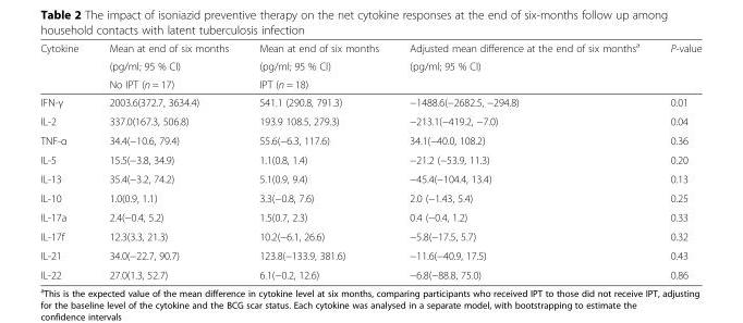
<table><thead><tr><td rowspan="3">Cytokine</td><td rowspan="3">Mean at end of six months (pg/ml; 95 % CI) No IPT (n = 17)</td><td rowspan="3">Mean at end of six months (pg/ml; 95 % CI) IPT (n = 18)</td><td rowspan="3">Adjusted mean difference at the end of six months<sup>a</sup> (pg/ml; 95 % CI)</td><td rowspan="3">P-value</td></tr><tr></tr><tr></tr></thead><tbody><tr><td>IFN-γ</td><td>2003.6(372.7, 3634.4)</td><td>541.1 (290.8, 791.3)</td><td>−1488.6(−2682.5, −294.8)</td><td>0.01</td></tr><tr><td>IL-2</td><td>337.0(167.3, 506.8)</td><td>193.9 108.5, 279.3)</td><td>−213.1(−419.2, −7.0)</td><td>0.04</td></tr><tr><td>TNF-α</td><td>34.4(−10.6, 79.4)</td><td>55.6(−6.3, 117.6)</td><td>34.1(−40.0, 108.2)</td><td>0.36</td></tr><tr><td>IL-5</td><td>15.5(−3.8, 34.9)</td><td>1.1(0.8, 1.4)</td><td>−21.2 (−53.9, 11.3)</td><td>0.20</td></tr><tr><td>IL-13</td><td>35.4(−3.2, 74.2)</td><td>5.1(0.9, 9.4)</td><td>−45.4(−104.4, 13.4)</td><td>0.13</td></tr><tr><td>IL-10</td><td>1.0(0.9, 1.1)</td><td>3.3(−0.8, 7.6)</td><td>2.0 (−1.43, 5.4)</td><td>0.25</td></tr><tr><td>IL-17a</td><td>2.4(−0.4, 5.2)</td><td>1.5(0.7, 2.3)</td><td>0.4 (−0.4, 1.2)</td><td>0.33</td></tr><tr><td>IL-17f</td><td>12.3(3.3, 21.3)</td><td>10.2(−6.1, 26.6)</td><td>−5.8(−17.5, 5.7)</td><td>0.32</td></tr><tr><td>IL-21</td><td>34.0(−22.7, 90.7)</td><td>123.8(−133.9, 381.6)</td><td>−11.6(−40.9, 17.5)</td><td>0.43</td></tr><tr><td>IL-22</td><td>27.0(1.3, 52.7)</td><td>6.1(−0.2, 12.6)</td><td>−6.8(−88.8, 75.0)</td><td>0.86</td></tr></tbody></table>